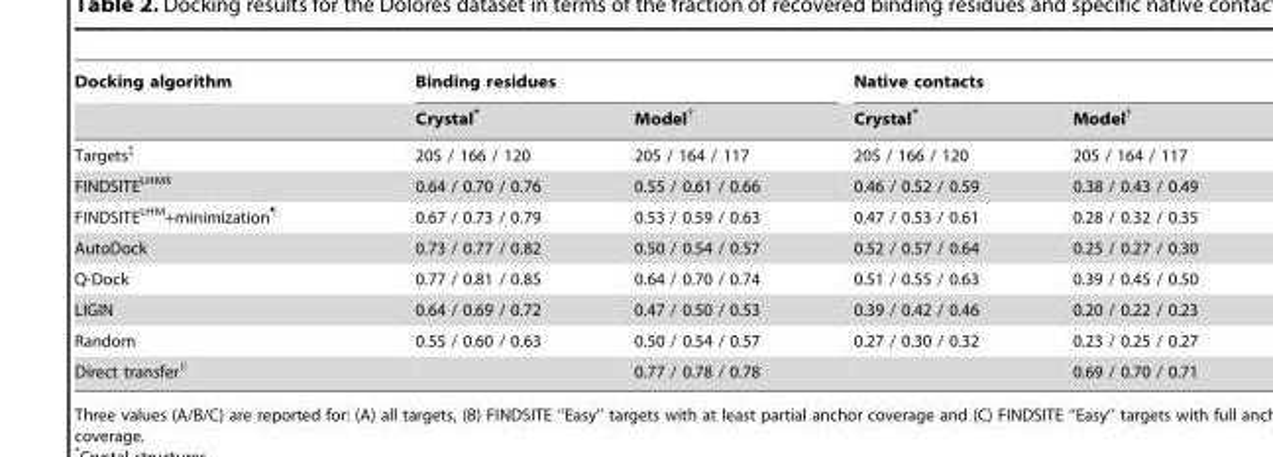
<table><thead><tr><td rowspan="2">Docking algorithm</td><td colspan="2">Binding residues</td><td colspan="2">Native contacts</td></tr><tr><td>Crystal*</td><td>Model†</td><td>Crystal*</td><td>Model†</td></tr></thead><tbody><tr><td>Targets‡</td><td>205 / 166 / 120</td><td>205 / 164 / 117</td><td>205 / 166 / 120</td><td>205 / 164 / 117</td></tr><tr><td>FINDSITE<sup>LHM</sup>§</td><td>0.64 / 0.70 / 0.76</td><td>0.55 / 0.61 / 0.66</td><td>0.46 / 0.52 / 0.59</td><td>0.38 / 0.43 / 0.49</td></tr><tr><td>FINDSITE<sup>LHM</sup>+minimization¶</td><td>0.67 / 0.73 / 0.79</td><td>0.53 / 0.59 / 0.63</td><td>0.47 / 0.53 / 0.61</td><td>0.28 / 0.32 / 0.35</td></tr><tr><td>AutoDock</td><td>0.73 / 0.77 / 0.82</td><td>0.50 / 0.54 / 0.57</td><td>0.52 / 0.57 / 0.64</td><td>0.25 / 0.27 / 0.30</td></tr><tr><td>Q-Dock</td><td>0.77 / 0.81 / 0.85</td><td>0.64 / 0.70 / 0.74</td><td>0.51 / 0.55 / 0.63</td><td>0.39 / 0.45 / 0.50</td></tr><tr><td>LIGIN</td><td>0.64 / 0.69 / 0.72</td><td>0.47 / 0.50 / 0.53</td><td>0.39 / 0.42 / 0.46</td><td>0.20 / 0.22 / 0.23</td></tr><tr><td>Random</td><td>0.55 / 0.60 / 0.63</td><td>0.50 / 0.54 / 0.57</td><td>0.27 / 0.30 / 0.32</td><td>0.23 / 0.25 / 0.27</td></tr><tr><td>Direct transfer∥</td><td></td><td>0.77 / 0.78 / 0.78</td><td></td><td>0.69 / 0.70 / 0.71</td></tr></tbody></table>